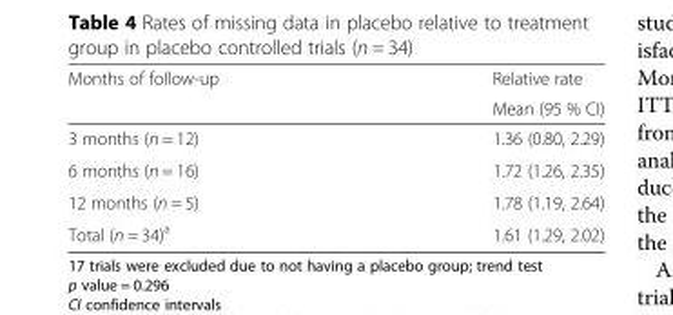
<table><thead><tr><td rowspan="2">Months of follow-up</td><td rowspan="2">Relative rate Mean (95 % CI)</td></tr><tr></tr></thead><tbody><tr><td>3 months (n = 12)</td><td>1.36 (0.80, 2.29)</td></tr><tr><td>6 months (n = 16)</td><td>1.72 (1.26, 2.35)</td></tr><tr><td>12 months (n = 5)</td><td>1.78 (1.19, 2.64)</td></tr><tr><td>Total (n = 34)<sup>a</sup></td><td>1.61 (1.29, 2.02)</td></tr></tbody></table>